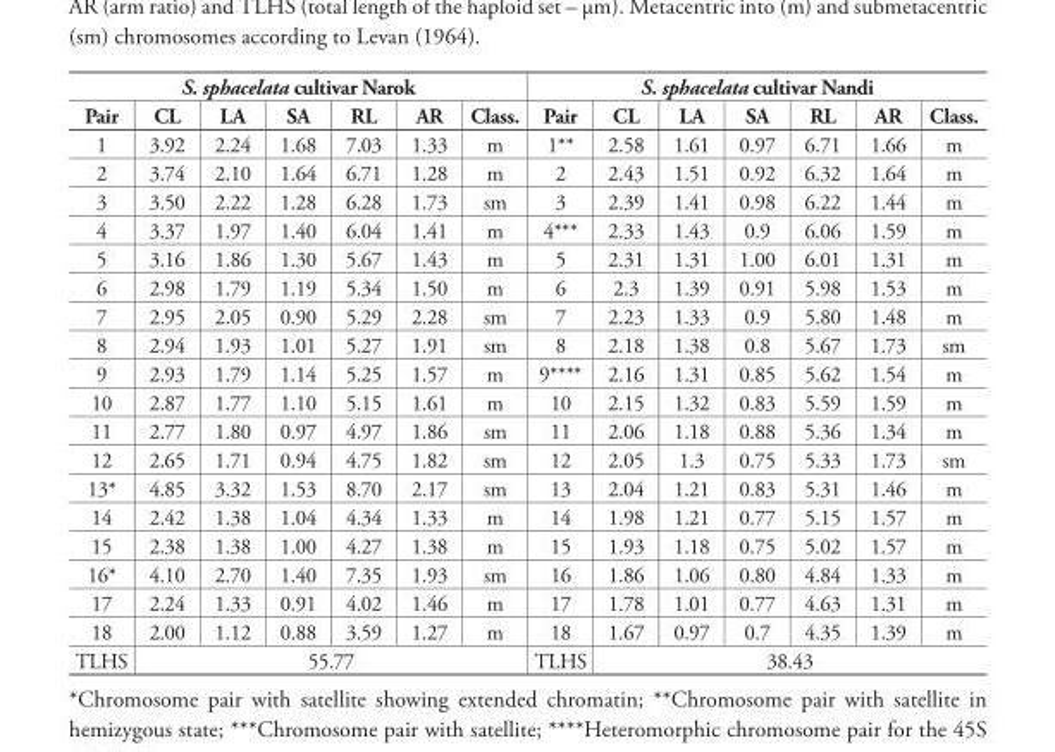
<table><thead><tr><td colspan="7">S. sphacelata cultivar Narok</td><td colspan="7">S. sphacelata cultivar Nandi</td></tr><tr><td>Pair</td><td>CL</td><td>LA</td><td>SA</td><td>RL</td><td>AR</td><td>Class.</td><td>Pair</td><td>CL</td><td>LA</td><td>SA</td><td>RL</td><td>AR</td><td>Class.</td></tr></thead><tbody><tr><td>1</td><td>3.92</td><td>2.24</td><td>1.68</td><td>7.03</td><td>1.33</td><td>m</td><td>1**</td><td>2.58</td><td>1.61</td><td>0.97</td><td>6.71</td><td>1.66</td><td>m</td></tr><tr><td>2</td><td>3.74</td><td>2.10</td><td>1.64</td><td>6.71</td><td>1.28</td><td>m</td><td>2</td><td>2.43</td><td>1.51</td><td>0.92</td><td>6.32</td><td>1.64</td><td>m</td></tr><tr><td>3</td><td>3.50</td><td>2.22</td><td>1.28</td><td>6.28</td><td>1.73</td><td>sm</td><td>3</td><td>2.39</td><td>1.41</td><td>0.98</td><td>6.22</td><td>1.44</td><td>m</td></tr><tr><td>4</td><td>3.37</td><td>1.97</td><td>1.40</td><td>6.04</td><td>1.41</td><td>m</td><td>4***</td><td>2.33</td><td>1.43</td><td>0.9</td><td>6.06</td><td>1.59</td><td>m</td></tr><tr><td>5</td><td>3.16</td><td>1.86</td><td>1.30</td><td>5.67</td><td>1.43</td><td>m</td><td>5</td><td>2.31</td><td>1.31</td><td>1.00</td><td>6.01</td><td>1.31</td><td>m</td></tr><tr><td>6</td><td>2.98</td><td>1.79</td><td>1.19</td><td>5.34</td><td>1.50</td><td>m</td><td>6</td><td>2.3</td><td>1.39</td><td>0.91</td><td>5.98</td><td>1.53</td><td>m</td></tr><tr><td>7</td><td>2.95</td><td>2.05</td><td>0.90</td><td>5.29</td><td>2.28</td><td>sm</td><td>7</td><td>2.23</td><td>1.33</td><td>0.9</td><td>5.80</td><td>1.48</td><td>m</td></tr><tr><td>8</td><td>2.94</td><td>1.93</td><td>1.01</td><td>5.27</td><td>1.91</td><td>sm</td><td>8</td><td>2.18</td><td>1.38</td><td>0.8</td><td>5.67</td><td>1.73</td><td>sm</td></tr><tr><td>9</td><td>2.93</td><td>1.79</td><td>1.14</td><td>5.25</td><td>1.57</td><td>m</td><td>9****</td><td>2.16</td><td>1.31</td><td>0.85</td><td>5.62</td><td>1.54</td><td>m</td></tr><tr><td>10</td><td>2.87</td><td>1.77</td><td>1.10</td><td>5.15</td><td>1.61</td><td>m</td><td>10</td><td>2.15</td><td>1.32</td><td>0.83</td><td>5.59</td><td>1.59</td><td>m</td></tr><tr><td>11</td><td>2.77</td><td>1.80</td><td>0.97</td><td>4.97</td><td>1.86</td><td>sm</td><td>11</td><td>2.06</td><td>1.18</td><td>0.88</td><td>5.36</td><td>1.34</td><td>m</td></tr><tr><td>12</td><td>2.65</td><td>1.71</td><td>0.94</td><td>4.75</td><td>1.82</td><td>sm</td><td>12</td><td>2.05</td><td>1.3</td><td>0.75</td><td>5.33</td><td>1.73</td><td>sm</td></tr><tr><td>13*</td><td>4.85</td><td>3.32</td><td>1.53</td><td>8.70</td><td>2.17</td><td>sm</td><td>13</td><td>2.04</td><td>1.21</td><td>0.83</td><td>5.31</td><td>1.46</td><td>m</td></tr><tr><td>14</td><td>2.42</td><td>1.38</td><td>1.04</td><td>4.34</td><td>1.33</td><td>m</td><td>14</td><td>1.98</td><td>1.21</td><td>0.77</td><td>5.15</td><td>1.57</td><td>m</td></tr><tr><td>15</td><td>2.38</td><td>1.38</td><td>1.00</td><td>4.27</td><td>1.38</td><td>m</td><td>15</td><td>1.93</td><td>1.18</td><td>0.75</td><td>5.02</td><td>1.57</td><td>m</td></tr><tr><td>16*</td><td>4.10</td><td>2.70</td><td>1.40</td><td>7.35</td><td>1.93</td><td>sm</td><td>16</td><td>1.86</td><td>1.06</td><td>0.80</td><td>4.84</td><td>1.33</td><td>m</td></tr><tr><td>17</td><td>2.24</td><td>1.33</td><td>0.91</td><td>4.02</td><td>1.46</td><td>m</td><td>17</td><td>1.78</td><td>1.01</td><td>0.77</td><td>4.63</td><td>1.31</td><td>m</td></tr><tr><td>18</td><td>2.00</td><td>1.12</td><td>0.88</td><td>3.59</td><td>1.27</td><td>m</td><td>18</td><td>1.67</td><td>0.97</td><td>0.7</td><td>4.35</td><td>1.39</td><td>m</td></tr><tr><td>TLHS</td><td colspan="6">55.77</td><td>TLHS</td><td colspan="6">38.43</td></tr></tbody></table>